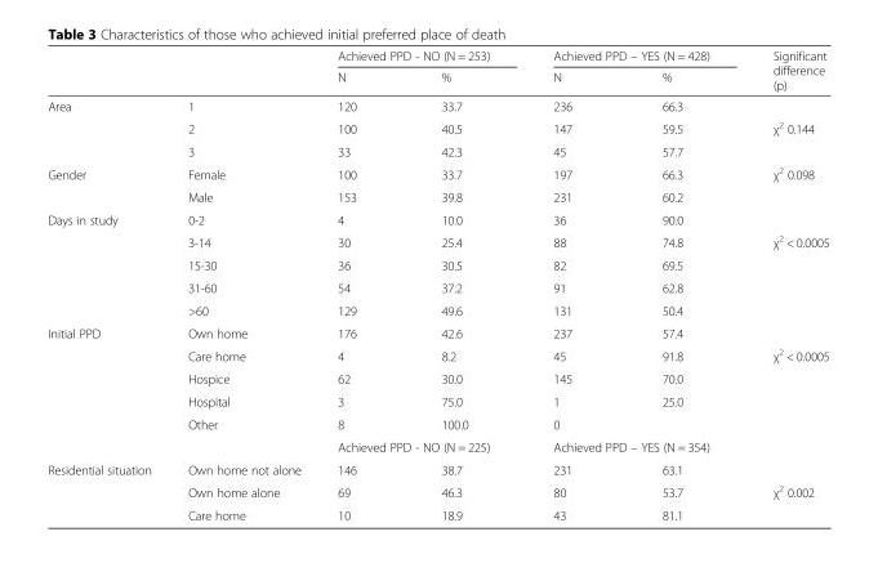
<table><thead><tr><td rowspan="2"></td><td rowspan="2"></td><td colspan="2">Achieved PPD - NO (N = 253)</td><td colspan="2">Achieved PPD – YES (N = 428)</td><td rowspan="2">Significant difference (p)</td></tr><tr><td>N</td><td>%</td><td>N</td><td>%</td></tr></thead><tbody><tr><td rowspan="3">Area</td><td>1</td><td>120</td><td>33.7</td><td>236</td><td>66.3</td><td></td></tr><tr><td>2</td><td>100</td><td>40.5</td><td>147</td><td>59.5</td><td>χ<sup>2</sup> 0.144</td></tr><tr><td>3</td><td>33</td><td>42.3</td><td>45</td><td>57.7</td><td></td></tr><tr><td rowspan="2">Gender</td><td>Female</td><td>100</td><td>33.7</td><td>197</td><td>66.3</td><td>χ<sup>2</sup> 0.098</td></tr><tr><td>Male</td><td>153</td><td>39.8</td><td>231</td><td>60.2</td><td></td></tr><tr><td rowspan="5">Days in study</td><td>0-2</td><td>4</td><td>10.0</td><td>36</td><td>90.0</td><td></td></tr><tr><td>3-14</td><td>30</td><td>25.4</td><td>88</td><td>74.8</td><td>χ<sup>2</sup> &lt; 0.0005</td></tr><tr><td>15-30</td><td>36</td><td>30.5</td><td>82</td><td>69.5</td><td rowspan="3"></td></tr><tr><td>31-60</td><td>54</td><td>37.2</td><td>91</td><td>62.8</td></tr><tr><td>&gt;60</td><td>129</td><td>49.6</td><td>131</td><td>50.4</td></tr><tr><td rowspan="6">Initial PPD</td><td>Own home</td><td>176</td><td>42.6</td><td>237</td><td>57.4</td><td></td></tr><tr><td>Care home</td><td>4</td><td>8.2</td><td>45</td><td>91.8</td><td>χ<sup>2</sup> &lt; 0.0005</td></tr><tr><td>Hospice</td><td>62</td><td>30.0</td><td>145</td><td>70.0</td><td rowspan="3"></td></tr><tr><td>Hospital</td><td>3</td><td>75.0</td><td>1</td><td>25.0</td></tr><tr><td>Other</td><td>8</td><td>100.0</td><td>0</td><td></td></tr><tr><td></td><td colspan="2">Achieved PPD - NO (N = 225)</td><td colspan="2">Achieved PPD – YES (N = 354)</td><td></td></tr><tr><td rowspan="3">Residential situation</td><td>Own home not alone</td><td>146</td><td>38.7</td><td>231</td><td>63.1</td><td></td></tr><tr><td>Own home alone</td><td>69</td><td>46.3</td><td>80</td><td>53.7</td><td>χ<sup>2</sup> 0.002</td></tr><tr><td>Care home</td><td>10</td><td>18.9</td><td>43</td><td>81.1</td><td></td></tr></tbody></table>